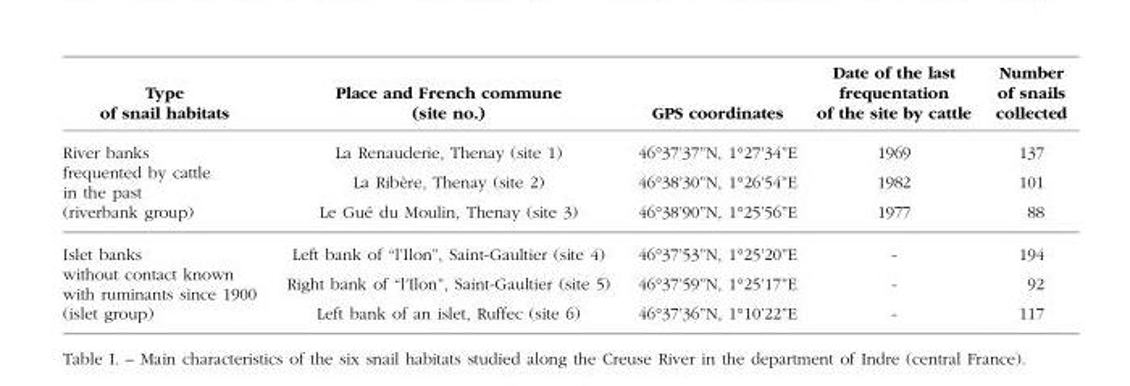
<table><thead><tr><td>Type of snail habitats</td><td>Place and French commune (site no.)</td><td>GPS coordinates</td><td>Date of the last frequentation of the site by cattle</td><td>Number of snails collected</td></tr></thead><tbody><tr><td rowspan="3">River banks frequented by cattle in the past (riverbank group)</td><td>La Renauderie, Thenay (site 1)</td><td>46°37’37”N, 1°27’34”E</td><td>1969</td><td>137</td></tr><tr><td>La Ribère, Thenay (site 2)</td><td>46°38’30”N, 1°26’54”E</td><td>1982</td><td>101</td></tr><tr><td>Le Gué du Moulin, Thenay (site 3)</td><td>46°38’90”N, 1°25’56”E</td><td>1977</td><td>88</td></tr><tr><td rowspan="3">Islet banks without contact known with ruminants since 1900 (islet group)</td><td>Left bank of “l’Ilon”, Saint-Gaultier (site 4)</td><td>46°37’53”N, 1°25’20”E</td><td>-</td><td>194</td></tr><tr><td>Right bank of “l’Ilon”, Saint-Gaultier (site 5)</td><td>46°37’59”N, 1°25’17”E</td><td>-</td><td>92</td></tr><tr><td>Left bank of an islet, Ruffec (site 6)</td><td>46°37’36”N, 1°10’22”E</td><td>-</td><td>117</td></tr></tbody></table>